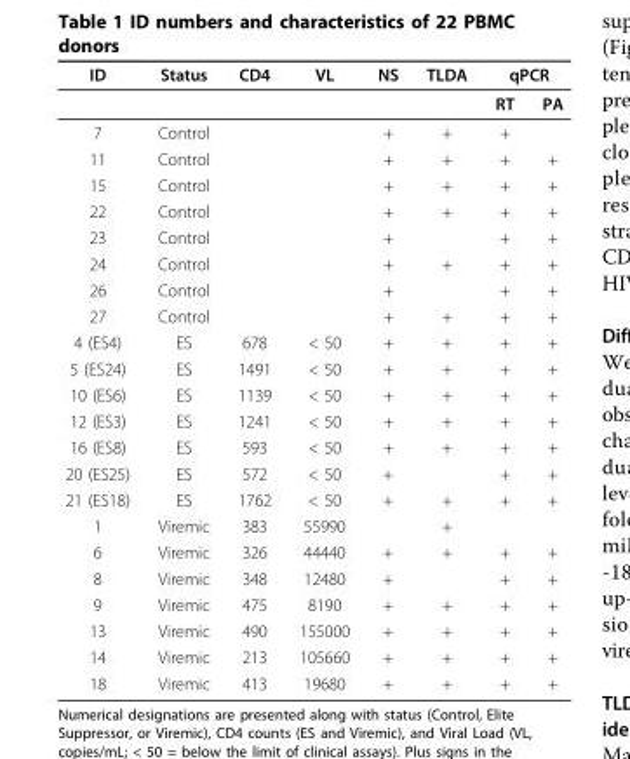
<table><thead><tr><td rowspan="2">ID</td><td rowspan="2">Status</td><td rowspan="2">CD4</td><td rowspan="2">VL</td><td rowspan="2">NS</td><td rowspan="2">TLDA</td><td colspan="2">qPCR</td></tr><tr><td>RT</td><td>PA</td></tr></thead><tbody><tr><td>7</td><td>Control</td><td></td><td></td><td>+</td><td>+</td><td>+</td><td></td></tr><tr><td>11</td><td>Control</td><td></td><td></td><td>+</td><td>+</td><td>+</td><td>+</td></tr><tr><td>15</td><td>Control</td><td></td><td></td><td>+</td><td>+</td><td>+</td><td>+</td></tr><tr><td>22</td><td>Control</td><td></td><td></td><td>+</td><td>+</td><td>+</td><td>+</td></tr><tr><td>23</td><td>Control</td><td></td><td></td><td>+</td><td></td><td>+</td><td>+</td></tr><tr><td>24</td><td>Control</td><td></td><td></td><td>+</td><td>+</td><td>+</td><td>+</td></tr><tr><td>26</td><td>Control</td><td></td><td></td><td>+</td><td></td><td>+</td><td>+</td></tr><tr><td>27</td><td>Control</td><td></td><td></td><td>+</td><td>+</td><td>+</td><td>+</td></tr><tr><td>4 (ES4)</td><td>ES</td><td>678</td><td>&lt; 50</td><td>+</td><td>+</td><td>+</td><td>+</td></tr><tr><td>5 (ES24)</td><td>ES</td><td>1491</td><td>&lt; 50</td><td>+</td><td>+</td><td>+</td><td>+</td></tr><tr><td>10 (ES6)</td><td>ES</td><td>1139</td><td>&lt; 50</td><td>+</td><td>+</td><td>+</td><td>+</td></tr><tr><td>12 (ES3)</td><td>ES</td><td>1241</td><td>&lt; 50</td><td>+</td><td>+</td><td>+</td><td>+</td></tr><tr><td>16 (ES8)</td><td>ES</td><td>593</td><td>&lt; 50</td><td>+</td><td>+</td><td>+</td><td>+</td></tr><tr><td>20 (ES25)</td><td>ES</td><td>572</td><td>&lt; 50</td><td>+</td><td></td><td>+</td><td>+</td></tr><tr><td>21 (ES18)</td><td>ES</td><td>1762</td><td>&lt; 50</td><td>+</td><td>+</td><td>+</td><td>+</td></tr><tr><td>1</td><td>Viremic</td><td>383</td><td>55990</td><td></td><td>+</td><td></td><td></td></tr><tr><td>6</td><td>Viremic</td><td>326</td><td>44440</td><td>+</td><td>+</td><td>+</td><td>+</td></tr><tr><td>8</td><td>Viremic</td><td>348</td><td>12480</td><td>+</td><td></td><td>+</td><td>+</td></tr><tr><td>9</td><td>Viremic</td><td>475</td><td>8190</td><td>+</td><td>+</td><td>+</td><td>+</td></tr><tr><td>13</td><td>Viremic</td><td>490</td><td>155000</td><td>+</td><td>+</td><td>+</td><td>+</td></tr><tr><td>14</td><td>Viremic</td><td>213</td><td>105660</td><td>+</td><td>+</td><td>+</td><td>+</td></tr><tr><td>18</td><td>Viremic</td><td>413</td><td>19680</td><td>+</td><td>+</td><td>+</td><td>+</td></tr></tbody></table>